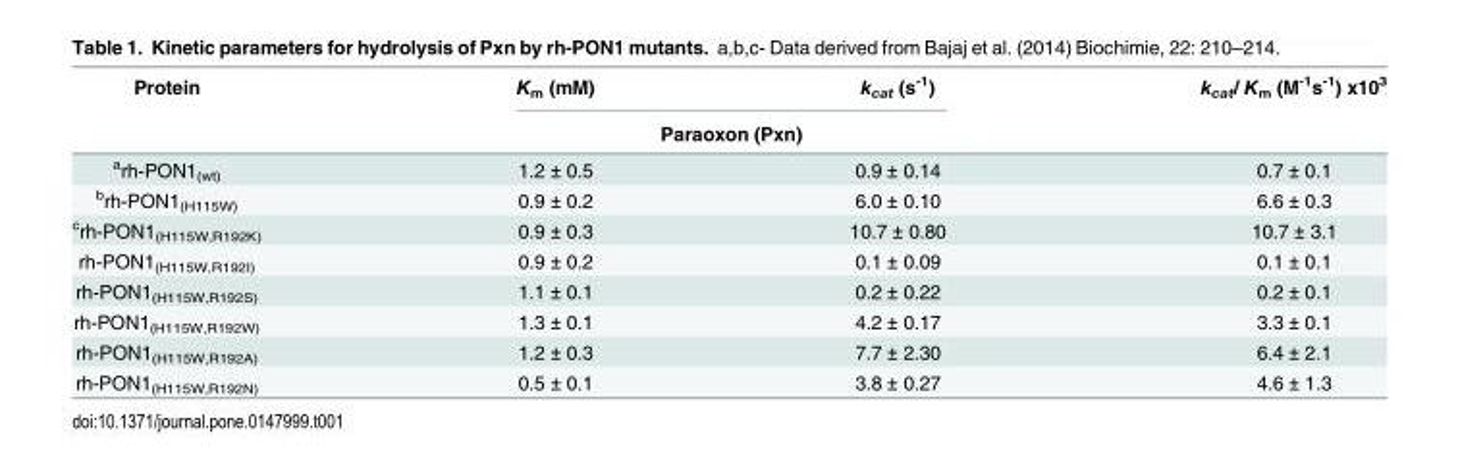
<table><thead><tr><td rowspan="2">Protein</td><td>K<sub>m</sub> (mM)</td><td>k<sub>cat</sub> (s<sup>-1</sup>)</td><td rowspan="2">k<sub>cat</sub>/ K<sub>m</sub> (M<sup>-1</sup>s<sup>-1</sup>) x10<sup>3</sup></td></tr><tr><td colspan="2">Paraoxon (Pxn)</td></tr></thead><tbody><tr><td><sup>a</sup>rh-PON1<sub>(wt)</sub></td><td>1.2 ± 0.5</td><td>0.9 ± 0.14</td><td>0.7 ± 0.1</td></tr><tr><td><sup>b</sup>rh-PON1<sub>(H115W)</sub></td><td>0.9 ± 0.2</td><td>6.0 ± 0.10</td><td>6.6 ± 0.3</td></tr><tr><td><sup>c</sup>rh-PON1<sub>(H115W,R192K)</sub></td><td>0.9 ± 0.3</td><td>10.7 ± 0.80</td><td>10.7 ± 3.1</td></tr><tr><td>rh-PON1<sub>(H115W,R192I)</sub></td><td>0.9 ± 0.2</td><td>0.1 ± 0.09</td><td>0.1 ± 0.1</td></tr><tr><td>rh-PON1<sub>(H115W,R192S)</sub></td><td>1.1 ± 0.1</td><td>0.2 ± 0.22</td><td>0.2 ± 0.1</td></tr><tr><td>rh-PON1<sub>(H115W,R192W)</sub></td><td>1.3 ± 0.1</td><td>4.2 ± 0.17</td><td>3.3 ± 0.1</td></tr><tr><td>rh-PON1<sub>(H115W,R192A)</sub></td><td>1.2 ± 0.3</td><td>7.7 ± 2.30</td><td>6.4 ± 2.1</td></tr><tr><td>rh-PON1<sub>(H115W,R192N)</sub></td><td>0.5 ± 0.1</td><td>3.8 ± 0.27</td><td>4.6 ± 1.3</td></tr></tbody></table>